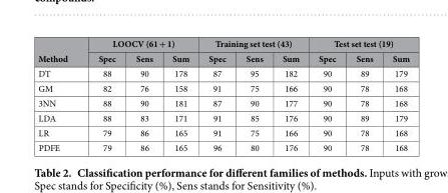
<table><thead><tr><td rowspan="2">Method</td><td colspan="3">LOOCV (61 + 1)</td><td colspan="3">Training set test (43)</td><td colspan="3">Test set test (19)</td></tr><tr><td>Spec</td><td>Sens</td><td>Sum</td><td>Spec</td><td>Sens</td><td>Sum</td><td>Spec</td><td>Sens</td><td>Sum</td></tr></thead><tbody><tr><td>DT</td><td>88</td><td>90</td><td>178</td><td>87</td><td>95</td><td>182</td><td>90</td><td>89</td><td>179</td></tr><tr><td>GM</td><td>82</td><td>76</td><td>158</td><td>91</td><td>75</td><td>166</td><td>90</td><td>78</td><td>168</td></tr><tr><td>3NN</td><td>88</td><td>90</td><td>181</td><td>87</td><td>90</td><td>177</td><td>90</td><td>78</td><td>168</td></tr><tr><td>LDA</td><td>88</td><td>83</td><td>171</td><td>91</td><td>85</td><td>176</td><td>90</td><td>89</td><td>179</td></tr><tr><td>LR</td><td>79</td><td>86</td><td>165</td><td>91</td><td>75</td><td>166</td><td>90</td><td>78</td><td>168</td></tr><tr><td>PDFE</td><td>79</td><td>86</td><td>165</td><td>96</td><td>80</td><td>176</td><td>90</td><td>78</td><td>168</td></tr></tbody></table>